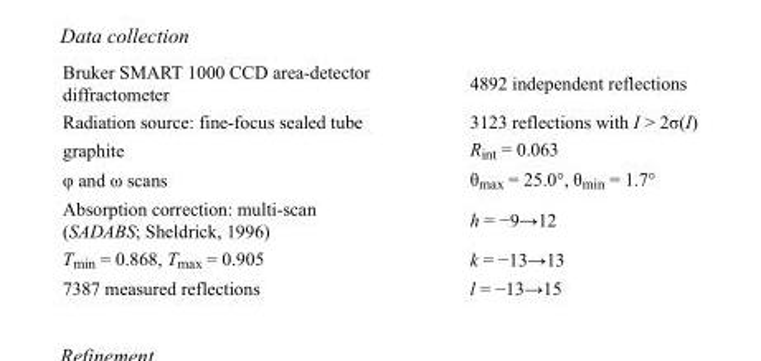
<table><tbody><tr><td>Bruker SMART 1000 CCD area-detector diffractometer</td><td>4892 independent reflections</td></tr><tr><td>Radiation source: fine-focus sealed tube</td><td>3123 reflections with I &gt; 2σ(I)</td></tr><tr><td>graphite</td><td>R<sub>int</sub> = 0.063</td></tr><tr><td>φ and ω scans</td><td>θ<sub>max</sub> = 25.0°, θ<sub>min</sub> = 1.7°</td></tr><tr><td>Absorption correction: multi-scan (SADABS; Sheldrick, 1996)</td><td>h = −9→12</td></tr><tr><td>T<sub>min</sub> = 0.868, T<sub>max</sub> = 0.905</td><td>k = −13→13</td></tr><tr><td>7387 measured reflections</td><td>l = −13→15</td></tr></tbody></table>